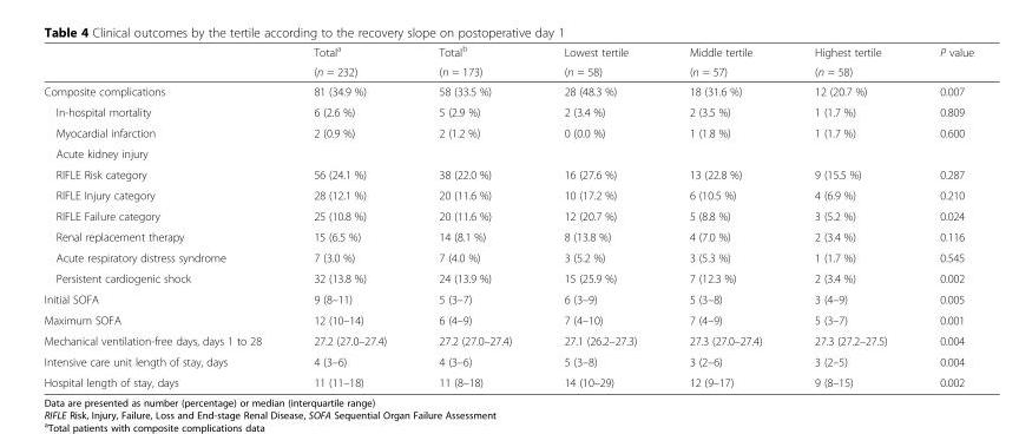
<table><thead><tr><td rowspan="2"></td><td rowspan="2">Total<sup>a</sup> (n = 232)</td><td rowspan="2">Total<sup>b</sup> (n = 173)</td><td rowspan="2">Lowest tertile (n = 58)</td><td rowspan="2">Middle tertile (n = 57)</td><td rowspan="2">Highest tertile (n = 58)</td><td rowspan="2">P value</td></tr><tr></tr></thead><tbody><tr><td>Composite complications</td><td>81 (34.9 %)</td><td>58 (33.5 %)</td><td>28 (48.3 %)</td><td>18 (31.6 %)</td><td>12 (20.7 %)</td><td>0.007</td></tr><tr><td>In-hospital mortality</td><td>6 (2.6 %)</td><td>5 (2.9 %)</td><td>2 (3.4 %)</td><td>2 (3.5 %)</td><td>1 (1.7 %)</td><td>0.809</td></tr><tr><td>Myocardial infarction</td><td>2 (0.9 %)</td><td>2 (1.2 %)</td><td>0 (0.0 %)</td><td>1 (1.8 %)</td><td>1 (1.7 %)</td><td>0.600</td></tr><tr><td colspan="7">Acute kidney injury</td></tr><tr><td>RIFLE Risk category</td><td>56 (24.1 %)</td><td>38 (22.0 %)</td><td>16 (27.6 %)</td><td>13 (22.8 %)</td><td>9 (15.5 %)</td><td>0.287</td></tr><tr><td>RIFLE Injury category</td><td>28 (12.1 %)</td><td>20 (11.6 %)</td><td>10 (17.2 %)</td><td>6 (10.5 %)</td><td>4 (6.9 %)</td><td>0.210</td></tr><tr><td>RIFLE Failure category</td><td>25 (10.8 %)</td><td>20 (11.6 %)</td><td>12 (20.7 %)</td><td>5 (8.8 %)</td><td>3 (5.2 %)</td><td>0.024</td></tr><tr><td>Renal replacement therapy</td><td>15 (6.5 %)</td><td>14 (8.1 %)</td><td>8 (13.8 %)</td><td>4 (7.0 %)</td><td>2 (3.4 %)</td><td>0.116</td></tr><tr><td>Acute respiratory distress syndrome</td><td>7 (3.0 %)</td><td>7 (4.0 %)</td><td>3 (5.2 %)</td><td>3 (5.3 %)</td><td>1 (1.7 %)</td><td>0.545</td></tr><tr><td>Persistent cardiogenic shock</td><td>32 (13.8 %)</td><td>24 (13.9 %)</td><td>15 (25.9 %)</td><td>7 (12.3 %)</td><td>2 (3.4 %)</td><td>0.002</td></tr><tr><td>Initial SOFA</td><td>9 (8–11)</td><td>5 (3–7)</td><td>6 (3–9)</td><td>5 (3–8)</td><td>3 (4–9)</td><td>0.005</td></tr><tr><td>Maximum SOFA</td><td>12 (10–14)</td><td>6 (4–9)</td><td>7 (4–10)</td><td>7 (4–9)</td><td>5 (3–7)</td><td>0.001</td></tr><tr><td>Mechanical ventilation-free days, days 1 to 28</td><td>27.2 (27.0–27.4)</td><td>27.2 (27.0–27.4)</td><td>27.1 (26.2–27.3)</td><td>27.3 (27.0–27.4)</td><td>27.3 (27.2–27.5)</td><td>0.004</td></tr><tr><td>Intensive care unit length of stay, days</td><td>4 (3–6)</td><td>4 (3–6)</td><td>5 (3–8)</td><td>3 (2–6)</td><td>3 (2–5)</td><td>0.004</td></tr><tr><td>Hospital length of stay, days</td><td>11 (11–18)</td><td>11 (8–18)</td><td>14 (10–29)</td><td>12 (9–17)</td><td>9 (8–15)</td><td>0.002</td></tr></tbody></table>